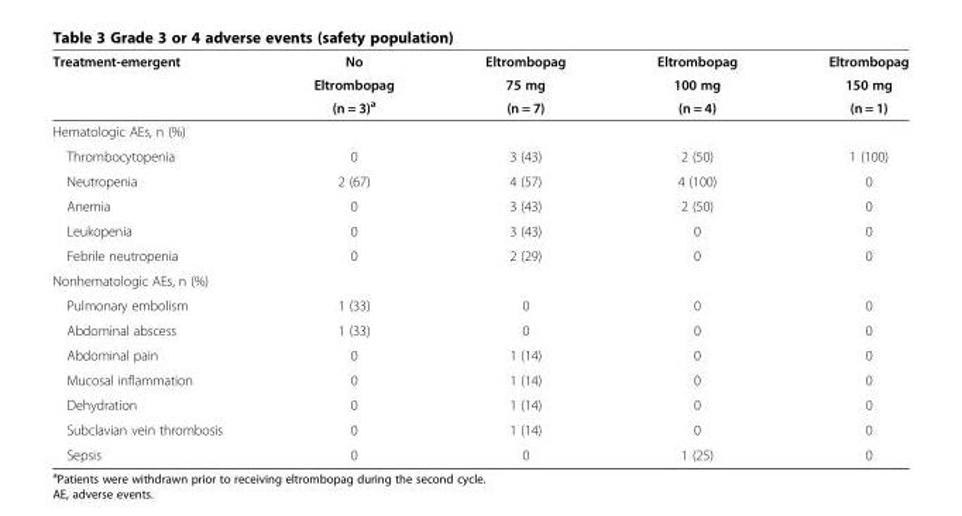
<table><thead><tr><td rowspan="3">Treatment-emergent</td><td rowspan="3">No Eltrombopag (n = 3)<sup>a</sup></td><td rowspan="3">Eltrombopag 75 mg (n = 7)</td><td rowspan="3">Eltrombopag 100 mg (n = 4)</td><td rowspan="3">Eltrombopag 150 mg (n = 1)</td></tr><tr></tr><tr></tr></thead><tbody><tr><td colspan="5">Hematologic AEs, n (%)</td></tr><tr><td>Thrombocytopenia</td><td>0</td><td>3 (43)</td><td>2 (50)</td><td>1 (100)</td></tr><tr><td>Neutropenia</td><td>2 (67)</td><td>4 (57)</td><td>4 (100)</td><td>0</td></tr><tr><td>Anemia</td><td>0</td><td>3 (43)</td><td>2 (50)</td><td>0</td></tr><tr><td>Leukopenia</td><td>0</td><td>3 (43)</td><td>0</td><td>0</td></tr><tr><td>Febrile neutropenia</td><td>0</td><td>2 (29)</td><td>0</td><td>0</td></tr><tr><td colspan="5">Nonhematologic AEs, n (%)</td></tr><tr><td>Pulmonary embolism</td><td>1 (33)</td><td>0</td><td>0</td><td>0</td></tr><tr><td>Abdominal abscess</td><td>1 (33)</td><td>0</td><td>0</td><td>0</td></tr><tr><td>Abdominal pain</td><td>0</td><td>1 (14)</td><td>0</td><td>0</td></tr><tr><td>Mucosal inflammation</td><td>0</td><td>1 (14)</td><td>0</td><td>0</td></tr><tr><td>Dehydration</td><td>0</td><td>1 (14)</td><td>0</td><td>0</td></tr><tr><td>Subclavian vein thrombosis</td><td>0</td><td>1 (14)</td><td>0</td><td>0</td></tr><tr><td>Sepsis</td><td>0</td><td>0</td><td>1 (25)</td><td>0</td></tr></tbody></table>